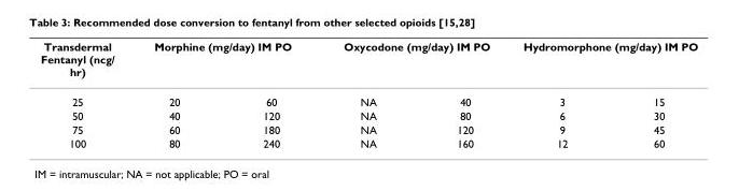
<table><thead><tr><td rowspan="2">Transdermal Fentanyl (ncg/ hr) 25</td><td colspan="2">Morphine (mg/day) IM PO</td><td colspan="2">Oxycodone (mg/day) IM PO</td><td colspan="2">Hydromorphone (mg/day) IM PO</td></tr><tr><td>20</td><td>60</td><td>NA</td><td>40</td><td>3</td><td>15</td></tr></thead><tbody><tr><td>50</td><td>40</td><td>120</td><td>NA</td><td>80</td><td>6</td><td>30</td></tr><tr><td>75</td><td>60</td><td>180</td><td>NA</td><td>120</td><td>9</td><td>45</td></tr><tr><td>100</td><td>80</td><td>240</td><td>NA</td><td>160</td><td>12</td><td>60</td></tr></tbody></table>